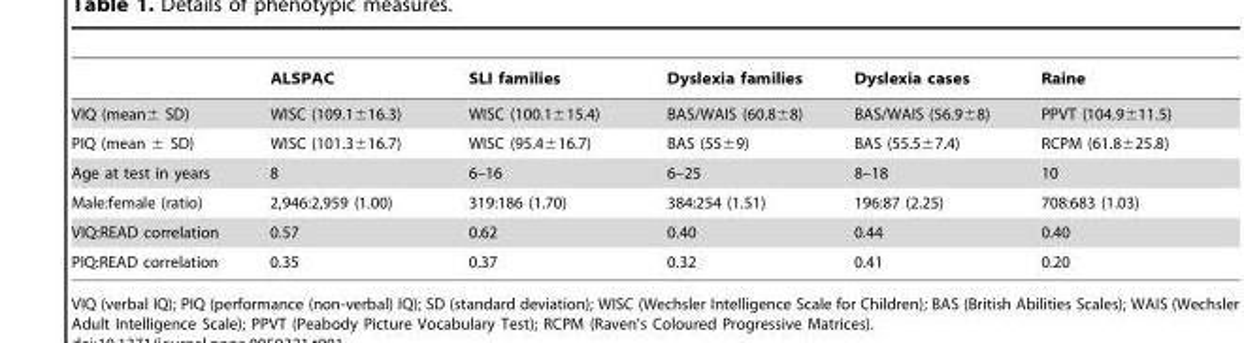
<table><thead><tr><td></td><td>ALSPAC</td><td>SLI families</td><td>Dyslexia families</td><td>Dyslexia cases</td><td>Raine</td></tr></thead><tbody><tr><td>VIQ (mean± SD)</td><td>WISC (109.1±16.3)</td><td>WISC (100.1±15.4)</td><td>BAS/WAIS (60.8±8)</td><td>BAS/WAIS (56.9±8)</td><td>PPVT (104.9±11.5)</td></tr><tr><td>PIQ (mean ± SD)</td><td>WISC (101.3±16.7)</td><td>WISC (95.4±16.7)</td><td>BAS (55±9)</td><td>BAS (55.5±7.4)</td><td>RCPM (61.8±25.8)</td></tr><tr><td>Age at test in years</td><td>8</td><td>6–16</td><td>6–25</td><td>8–18</td><td>10</td></tr><tr><td>Male:female (ratio)</td><td>2,946:2,959 (1.00)</td><td>319:186 (1.70)</td><td>384:254 (1.51)</td><td>196:87 (2.25)</td><td>708:683 (1.03)</td></tr><tr><td>VIQ:READ correlation</td><td>0.57</td><td>0.62</td><td>0.40</td><td>0.44</td><td>0.40</td></tr><tr><td>PIQ:READ correlation</td><td>0.35</td><td>0.37</td><td>0.32</td><td>0.41</td><td>0.20</td></tr></tbody></table>